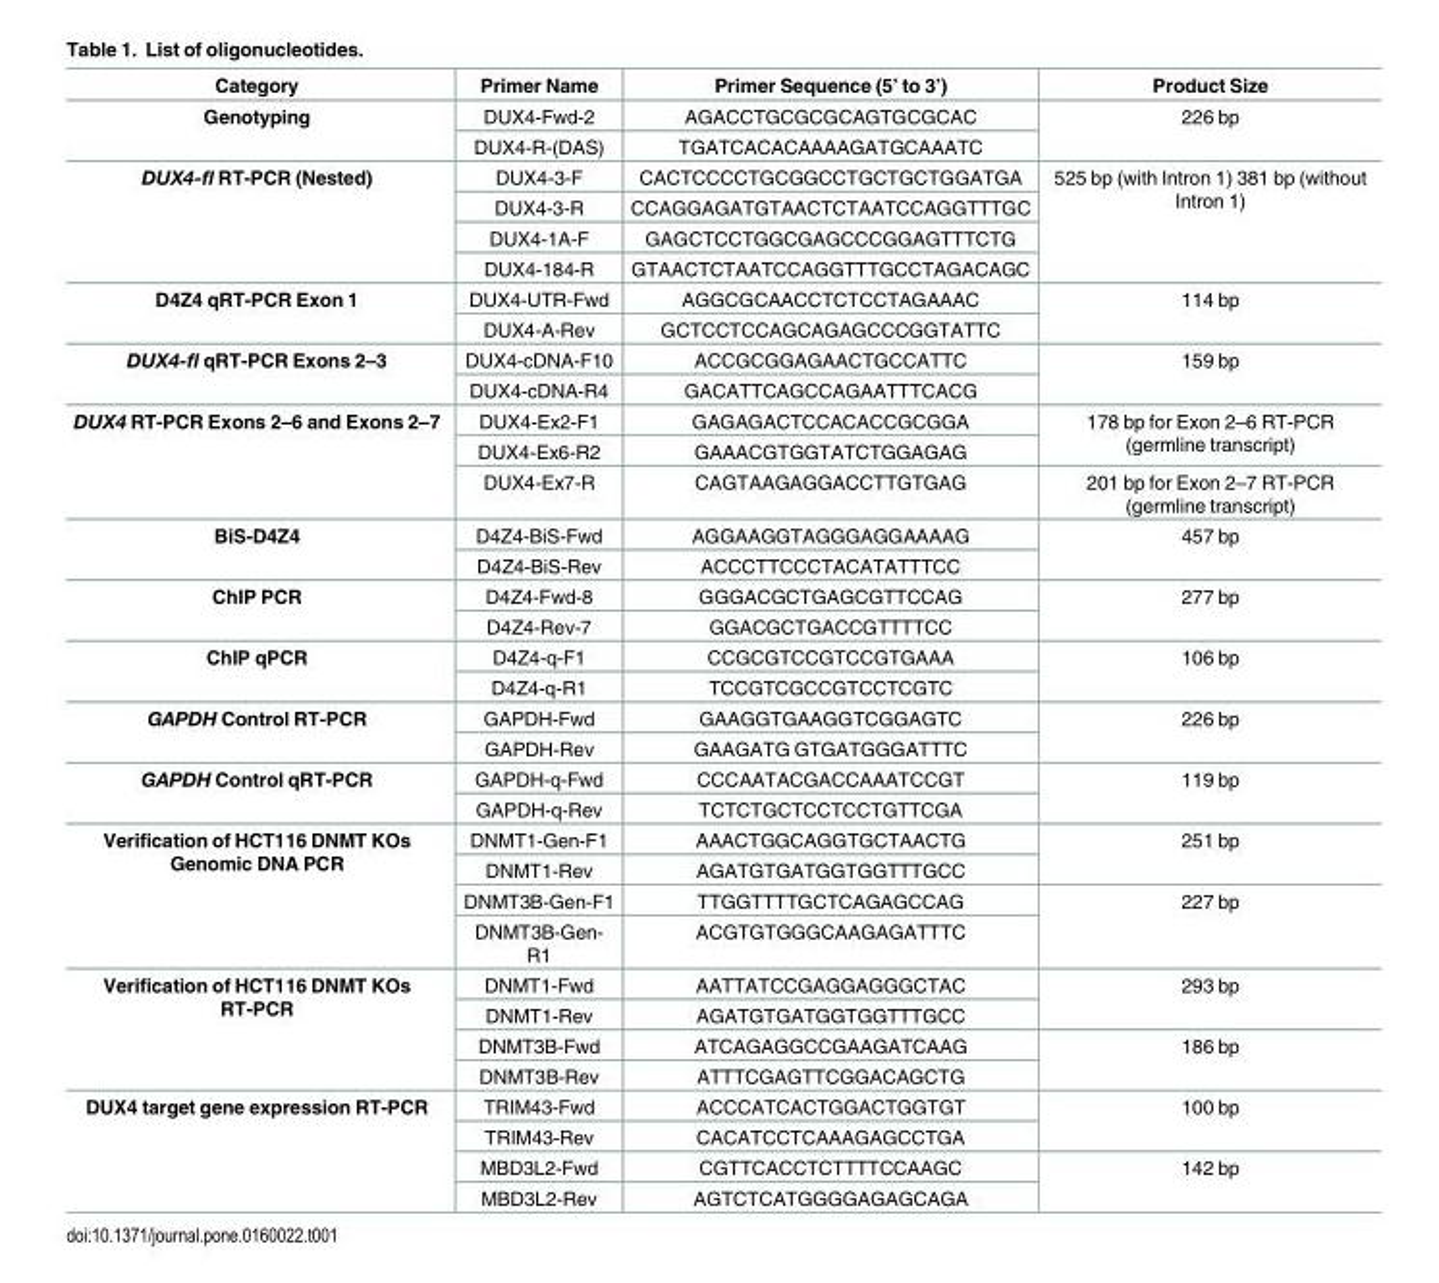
<table><thead><tr><td>Category</td><td>Primer Name</td><td>Primer Sequence (5’ to 3’)</td><td>Product Size</td></tr></thead><tbody><tr><td rowspan="2">Genotyping</td><td>DUX4-Fwd-2</td><td>AGACCTGCGCGCAGTGCGCAC</td><td rowspan="2">226 bp</td></tr><tr><td>DUX4-R-(DAS)</td><td>TGATCACACAAAAGATGCAAATC</td></tr><tr><td rowspan="4">DUX4-fl RT-PCR (Nested)</td><td>DUX4-3-F</td><td>CACTCCCCTGCGGCCTGCTGCTGGATGA</td><td rowspan="4">525 bp (with Intron 1) 381 bp (without Intron 1)</td></tr><tr><td>DUX4-3-R</td><td>CCAGGAGATGTAACTCTAATCCAGGTTTGC</td></tr><tr><td>DUX4-1A-F</td><td>GAGCTCCTGGCGAGCCCGGAGTTTCTG</td></tr><tr><td>DUX4-184-R</td><td>GTAACTCTAATCCAGGTTTGCCTAGACAGC</td></tr><tr><td rowspan="2">D4Z4 qRT-PCR Exon 1</td><td>DUX4-UTR-Fwd</td><td>AGGCGCAACCTCTCCTAGAAAC</td><td rowspan="2">114 bp</td></tr><tr><td>DUX4-A-Rev</td><td>GCTCCTCCAGCAGAGCCCGGTATTC</td></tr><tr><td rowspan="2">DUX4-fl qRT-PCR Exons 2–3</td><td>DUX4-cDNA-F10</td><td>ACCGCGGAGAACTGCCATTC</td><td rowspan="2">159 bp</td></tr><tr><td>DUX4-cDNA-R4</td><td>GACATTCAGCCAGAATTTCACG</td></tr><tr><td rowspan="3">DUX4 RT-PCR Exons 2–6 and Exons 2–7</td><td>DUX4-Ex2-F1</td><td>GAGAGACTCCACACCGCGGA</td><td rowspan="2">178 bp for Exon 2–6 RT-PCR (germline transcript)</td></tr><tr><td>DUX4-Ex6-R2</td><td>GAAACGTGGTATCTGGAGAG</td></tr><tr><td>DUX4-Ex7-R</td><td>CAGTAAGAGGACCTTGTGAG</td><td>201 bp for Exon 2–7 RT-PCR (germline transcript)</td></tr><tr><td rowspan="2">BiS-D4Z4</td><td>D4Z4-BiS-Fwd</td><td>AGGAAGGTAGGGAGGAAAAG</td><td rowspan="2">457 bp</td></tr><tr><td>D4Z4-BiS-Rev</td><td>ACCCTTCCCTACATATTTCC</td></tr><tr><td rowspan="2">ChIP PCR</td><td>D4Z4-Fwd-8</td><td>GGGACGCTGAGCGTTCCAG</td><td rowspan="2">277 bp</td></tr><tr><td>D4Z4-Rev-7</td><td>GGACGCTGACCGTTTTCC</td></tr><tr><td rowspan="2">ChIP qPCR</td><td>D4Z4-q-F1</td><td>CCGCGTCCGTCCGTGAAA</td><td rowspan="2">106 bp</td></tr><tr><td>D4Z4-q-R1</td><td>TCCGTCGCCGTCCTCGTC</td></tr><tr><td rowspan="2">GAPDH Control RT-PCR</td><td>GAPDH-Fwd</td><td>GAAGGTGAAGGTCGGAGTC</td><td rowspan="2">226 bp</td></tr><tr><td>GAPDH-Rev</td><td>GAAGATG GTGATGGGATTTC</td></tr><tr><td rowspan="2">GAPDH Control qRT-PCR</td><td>GAPDH-q-Fwd</td><td>CCCAATACGACCAAATCCGT</td><td rowspan="2">119 bp</td></tr><tr><td>GAPDH-q-Rev</td><td>TCTCTGCTCCTCCTGTTCGA</td></tr><tr><td rowspan="4">Verification of HCT116 DNMT KOs Genomic DNA PCR</td><td>DNMT1-Gen-F1</td><td>AAACTGGCAGGTGCTAACTG</td><td rowspan="2">251 bp</td></tr><tr><td>DNMT1-Rev</td><td>AGATGTGATGGTGGTTTGCC</td></tr><tr><td>DNMT3B-Gen-F1</td><td>TTGGTTTTGCTCAGAGCCAG</td><td rowspan="2">227 bp</td></tr><tr><td>DNMT3B-Gen- R1</td><td>ACGTGTGGGCAAGAGATTTC</td></tr><tr><td rowspan="4">Verification of HCT116 DNMT KOs RT-PCR</td><td>DNMT1-Fwd</td><td>AATTATCCGAGGAGGGCTAC</td><td rowspan="2">293 bp</td></tr><tr><td>DNMT1-Rev</td><td>AGATGTGATGGTGGTTTGCC</td></tr><tr><td>DNMT3B-Fwd</td><td>ATCAGAGGCCGAAGATCAAG</td><td rowspan="2">186 bp</td></tr><tr><td>DNMT3B-Rev</td><td>ATTTCGAGTTCGGACAGCTG</td></tr><tr><td rowspan="4">DUX4 target gene expression RT-PCR</td><td>TRIM43-Fwd</td><td>ACCCATCACTGGACTGGTGT</td><td rowspan="2">100 bp</td></tr><tr><td>TRIM43-Rev</td><td>CACATCCTCAAAGAGCCTGA</td></tr><tr><td>MBD3L2-Fwd</td><td>CGTTCACCTCTTTTCCAAGC</td><td rowspan="2">142 bp</td></tr><tr><td>MBD3L2-Rev</td><td>AGTCTCATGGGGAGAGCAGA</td></tr></tbody></table>